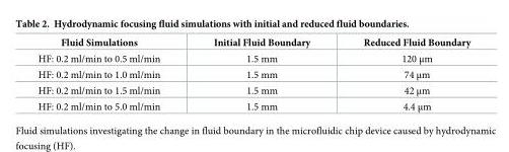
<table><thead><tr><td>Fluid Simulations</td><td>Initial Fluid Boundary</td><td>Reduced Fluid Boundary</td></tr></thead><tbody><tr><td>HF: 0.2 ml/min to 0.5 ml/min</td><td>1.5 mm</td><td>120 μm</td></tr><tr><td>HF: 0.2 ml/min to 1.0 ml/min</td><td>1.5 mm</td><td>74 μm</td></tr><tr><td>HF: 0.2 ml/min to 1.5 ml/min</td><td>1.5 mm</td><td>42 μm</td></tr><tr><td>HF: 0.2 ml/min to 5.0 ml/min</td><td>1.5 mm</td><td>4.4 μm</td></tr></tbody></table>